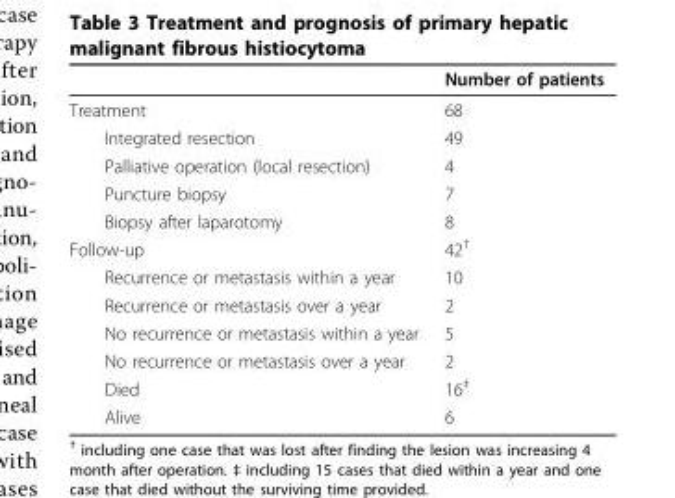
<table><thead><tr><td></td><td>Number of patients</td></tr></thead><tbody><tr><td>Treatment</td><td>68</td></tr><tr><td>Integrated resection</td><td>49</td></tr><tr><td>Palliative operation (local resection)</td><td>4</td></tr><tr><td>Puncture biopsy</td><td>7</td></tr><tr><td>Biopsy after laparotomy</td><td>8</td></tr><tr><td>Follow-up</td><td>42<sup>†</sup></td></tr><tr><td>Recurrence or metastasis within a year</td><td>10</td></tr><tr><td>Recurrence or metastasis over a year</td><td>2</td></tr><tr><td>No recurrence or metastasis within a year</td><td>5</td></tr><tr><td>No recurrence or metastasis over a year</td><td>2</td></tr><tr><td>Died</td><td>16<sup>‡</sup></td></tr><tr><td>Alive</td><td>6</td></tr></tbody></table>